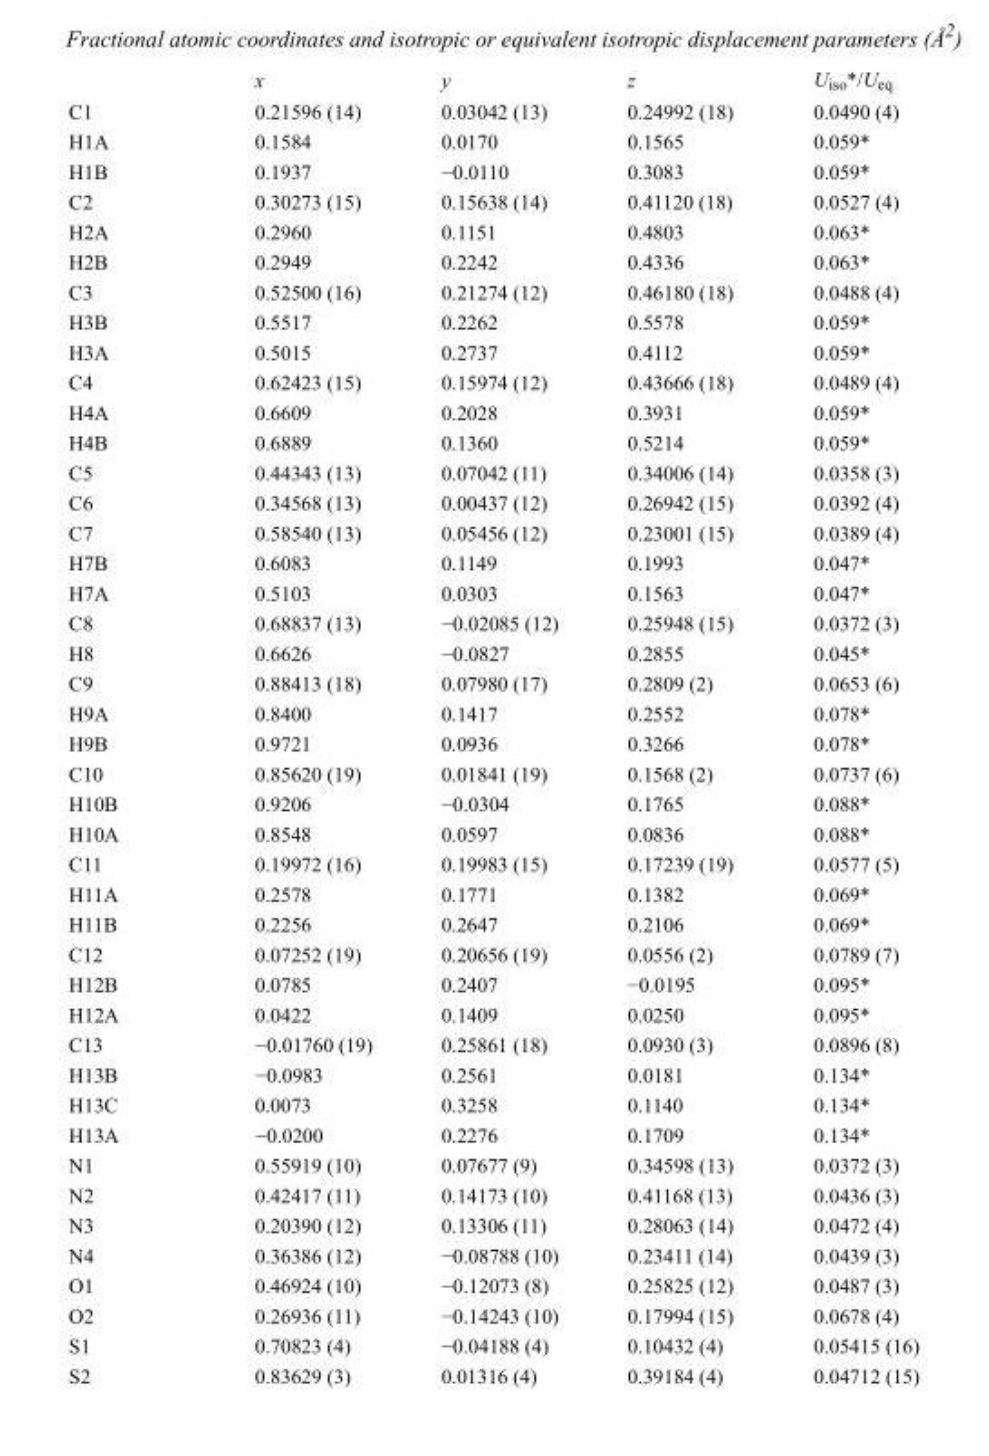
<table><thead><tr><td></td><td>x</td><td>y</td><td>z</td><td>U<sub>iso</sub>*/U<sub>eq</sub></td></tr></thead><tbody><tr><td>C1</td><td>0.21596 (14)</td><td>0.03042 (13)</td><td>0.24992 (18)</td><td>0.0490 (4)</td></tr><tr><td>H1A</td><td>0.1584</td><td>0.0170</td><td>0.1565</td><td>0.059*</td></tr><tr><td>H1B</td><td>0.1937</td><td>−0.0110</td><td>0.3083</td><td>0.059*</td></tr><tr><td>C2</td><td>0.30273 (15)</td><td>0.15638 (14)</td><td>0.41120 (18)</td><td>0.0527 (4)</td></tr><tr><td>H2A</td><td>0.2960</td><td>0.1151</td><td>0.4803</td><td>0.063*</td></tr><tr><td>H2B</td><td>0.2949</td><td>0.2242</td><td>0.4336</td><td>0.063*</td></tr><tr><td>C3</td><td>0.52500 (16)</td><td>0.21274 (12)</td><td>0.46180 (18)</td><td>0.0488 (4)</td></tr><tr><td>H3B</td><td>0.5517</td><td>0.2262</td><td>0.5578</td><td>0.059*</td></tr><tr><td>H3A</td><td>0.5015</td><td>0.2737</td><td>0.4112</td><td>0.059*</td></tr><tr><td>C4</td><td>0.62423 (15)</td><td>0.15974 (12)</td><td>0.43666 (18)</td><td>0.0489 (4)</td></tr><tr><td>H4A</td><td>0.6609</td><td>0.2028</td><td>0.3931</td><td>0.059*</td></tr><tr><td>H4B</td><td>0.6889</td><td>0.1360</td><td>0.5214</td><td>0.059*</td></tr><tr><td>C5</td><td>0.44343 (13)</td><td>0.07042 (11)</td><td>0.34006 (14)</td><td>0.0358 (3)</td></tr><tr><td>C6</td><td>0.34568 (13)</td><td>0.00437 (12)</td><td>0.26942 (15)</td><td>0.0392 (4)</td></tr><tr><td>C7</td><td>0.58540 (13)</td><td>0.05456 (12)</td><td>0.23001 (15)</td><td>0.0389 (4)</td></tr><tr><td>H7B</td><td>0.6083</td><td>0.1149</td><td>0.1993</td><td>0.047*</td></tr><tr><td>H7A</td><td>0.5103</td><td>0.0303</td><td>0.1563</td><td>0.047*</td></tr><tr><td>C8</td><td>0.68837 (13)</td><td>−0.02085 (12)</td><td>0.25948 (15)</td><td>0.0372 (3)</td></tr><tr><td>H8</td><td>0.6626</td><td>−0.0827</td><td>0.2855</td><td>0.045*</td></tr><tr><td>C9</td><td>0.88413 (18)</td><td>0.07980 (17)</td><td>0.2809 (2)</td><td>0.0653 (6)</td></tr><tr><td>H9A</td><td>0.8400</td><td>0.1417</td><td>0.2552</td><td>0.078*</td></tr><tr><td>H9B</td><td>0.9721</td><td>0.0936</td><td>0.3266</td><td>0.078*</td></tr><tr><td>C10</td><td>0.85620 (19)</td><td>0.01841 (19)</td><td>0.1568 (2)</td><td>0.0737 (6)</td></tr><tr><td>H10B</td><td>0.9206</td><td>−0.0304</td><td>0.1765</td><td>0.088*</td></tr><tr><td>H10A</td><td>0.8548</td><td>0.0597</td><td>0.0836</td><td>0.088*</td></tr><tr><td>C11</td><td>0.19972 (16)</td><td>0.19983 (15)</td><td>0.17239 (19)</td><td>0.0577 (5)</td></tr><tr><td>H11A</td><td>0.2578</td><td>0.1771</td><td>0.1382</td><td>0.069*</td></tr><tr><td>H11B</td><td>0.2256</td><td>0.2647</td><td>0.2106</td><td>0.069*</td></tr><tr><td>C12</td><td>0.07252 (19)</td><td>0.20656 (19)</td><td>0.0556 (2)</td><td>0.0789 (7)</td></tr><tr><td>H12B</td><td>0.0785</td><td>0.2407</td><td>−0.0195</td><td>0.095*</td></tr><tr><td>H12A</td><td>0.0422</td><td>0.1409</td><td>0.0250</td><td>0.095*</td></tr><tr><td>C13</td><td>−0.01760 (19)</td><td>0.25861 (18)</td><td>0.0930 (3)</td><td>0.0896 (8)</td></tr><tr><td>H13B</td><td>−0.0983</td><td>0.2561</td><td>0.0181</td><td>0.134*</td></tr><tr><td>H13C</td><td>0.0073</td><td>0.3258</td><td>0.1140</td><td>0.134*</td></tr><tr><td>H13A</td><td>−0.0200</td><td>0.2276</td><td>0.1709</td><td>0.134*</td></tr><tr><td>N1</td><td>0.55919 (10)</td><td>0.07677 (9)</td><td>0.34598 (13)</td><td>0.0372 (3)</td></tr><tr><td>N2</td><td>0.42417 (11)</td><td>0.14173 (10)</td><td>0.41168 (13)</td><td>0.0436 (3)</td></tr><tr><td>N3</td><td>0.20390 (12)</td><td>0.13306 (11)</td><td>0.28063 (14)</td><td>0.0472 (4)</td></tr><tr><td>N4</td><td>0.36386 (12)</td><td>−0.08788 (10)</td><td>0.23411 (14)</td><td>0.0439 (3)</td></tr><tr><td>O1</td><td>0.46924 (10)</td><td>−0.12073 (8)</td><td>0.25825 (12)</td><td>0.0487 (3)</td></tr><tr><td>O2</td><td>0.26936 (11)</td><td>−0.14243 (10)</td><td>0.17994 (15)</td><td>0.0678 (4)</td></tr><tr><td>S1</td><td>0.70823 (4)</td><td>−0.04188 (4)</td><td>0.10432 (4)</td><td>0.05415 (16)</td></tr><tr><td>S2</td><td>0.83629 (3)</td><td>0.01316 (4)</td><td>0.39184 (4)</td><td>0.04712 (15)</td></tr></tbody></table>